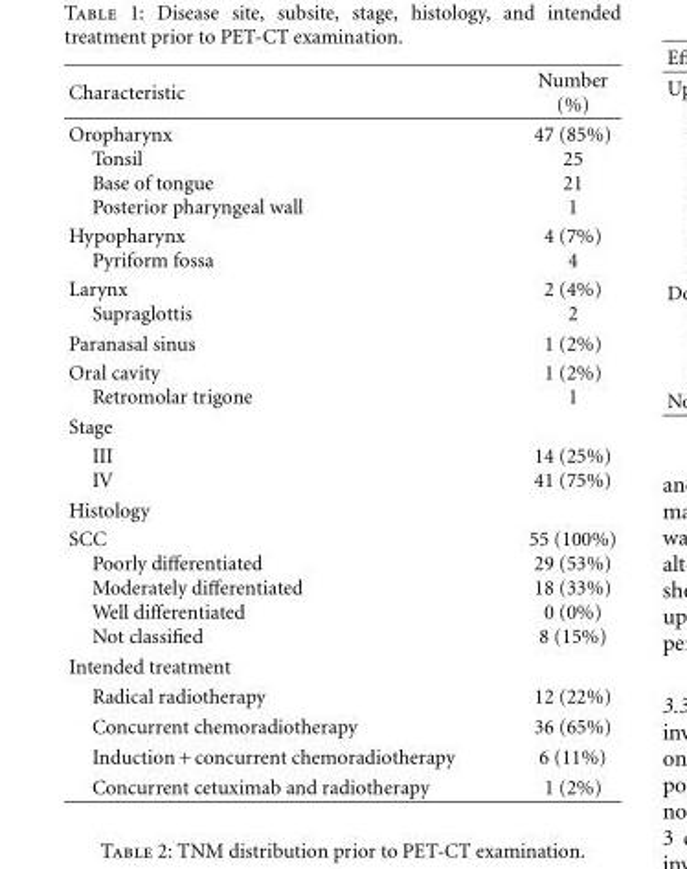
<table><thead><tr><td>Characteristic</td><td>Number (%)</td></tr></thead><tbody><tr><td>Oropharynx Tonsil Base of tongue Posterior pharyngeal wall</td><td>47 (85%) 25 21 1</td></tr><tr><td>Hypopharynx Pyriform fossa</td><td>4 (7%) 4</td></tr><tr><td>Larynx Supraglottis</td><td>2 (4%) 2</td></tr><tr><td>Paranasal sinus</td><td>1 (2%)</td></tr><tr><td>Oral cavity Retromolar trigone</td><td>1 (2%) 1</td></tr><tr><td colspan="2">Stage</td></tr><tr><td>III IV</td><td>14 (25%) 41 (75%)</td></tr><tr><td colspan="2">Histology</td></tr><tr><td>SCC Poorly differentiated Moderately differentiated Well differentiated Not classified</td><td>55 (100%) 29 (53%) 18 (33%) 0 (0%) 8 (15%)</td></tr><tr><td colspan="2">Intended treatment</td></tr><tr><td>Radical radiotherapy</td><td>12 (22%)</td></tr><tr><td>Concurrent chemoradiotherapy</td><td>36 (65%)</td></tr><tr><td>Induction + concurrent chemoradiotherapy</td><td>6 (11%)</td></tr><tr><td>Concurrent cetuximab and radiotherapy</td><td>1 (2%)</td></tr></tbody></table>